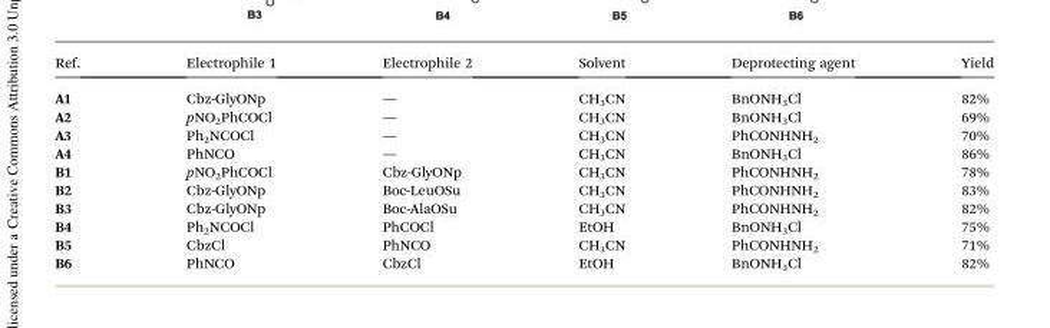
<table><thead><tr><td>Ref.</td><td>Electrophile 1</td><td>Electrophile 2</td><td>Solvent</td><td>Deprotecting agent</td><td>Yield</td></tr></thead><tbody><tr><td>A1</td><td>Cbz-GlyONp</td><td>—</td><td>CH<sub>3</sub>CN</td><td>BnONH<sub>3</sub>Cl</td><td>82%</td></tr><tr><td>A2</td><td>pNO<sub>2</sub>PhCOCl</td><td>—</td><td>CH<sub>3</sub>CN</td><td>BnONH<sub>3</sub>Cl</td><td>69%</td></tr><tr><td>A3</td><td>Ph<sub>2</sub>NCOCl</td><td>—</td><td>CH<sub>3</sub>CN</td><td>PhCONHNH<sub>2</sub></td><td>70%</td></tr><tr><td>A4</td><td>PhNCO</td><td>—</td><td>CH<sub>3</sub>CN</td><td>BnONH<sub>3</sub>Cl</td><td>86%</td></tr><tr><td>B1</td><td>pNO<sub>2</sub>PhCOCl</td><td>Cbz-GlyONp</td><td>CH<sub>3</sub>CN</td><td>PhCONHNH<sub>2</sub></td><td>78%</td></tr><tr><td>B2</td><td>Cbz-GlyONp</td><td>Boc-LeuOSu</td><td>CH<sub>3</sub>CN</td><td>PhCONHNH<sub>2</sub></td><td>83%</td></tr><tr><td>B3</td><td>Cbz-GlyONp</td><td>Boc-AlaOSu</td><td>CH<sub>3</sub>CN</td><td>PhCONHNH<sub>2</sub></td><td>82%</td></tr><tr><td>B4</td><td>Ph<sub>2</sub>NCOCl</td><td>PhCOCl</td><td>EtOH</td><td>BnONH<sub>3</sub>Cl</td><td>75%</td></tr><tr><td>B5</td><td>CbzCl</td><td>PhNCO</td><td>CH<sub>3</sub>CN</td><td>PhCONHNH<sub>2</sub></td><td>71%</td></tr><tr><td>B6</td><td>PhNCO</td><td>CbzCl</td><td>EtOH</td><td>BnONH<sub>3</sub>Cl</td><td>82%</td></tr></tbody></table>